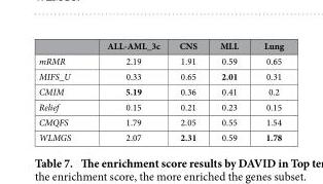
<table><thead><tr><td></td><td>ALL-AML_3c</td><td>CNS</td><td>MLL</td><td>Lung</td></tr></thead><tbody><tr><td>mRMR</td><td>2.19</td><td>1.91</td><td>0.59</td><td>0.65</td></tr><tr><td>MIFS_U</td><td>0.33</td><td>0.65</td><td>2.01</td><td>0.31</td></tr><tr><td>CMIM</td><td>5.19</td><td>0.36</td><td>0.41</td><td>0.2</td></tr><tr><td>Relief</td><td>0.15</td><td>0.21</td><td>0.23</td><td>0.15</td></tr><tr><td>CMQFS</td><td>1.79</td><td>2.05</td><td>0.55</td><td>1.54</td></tr><tr><td>WLMGS</td><td>2.07</td><td>2.31</td><td>0.59</td><td>1.78</td></tr></tbody></table>